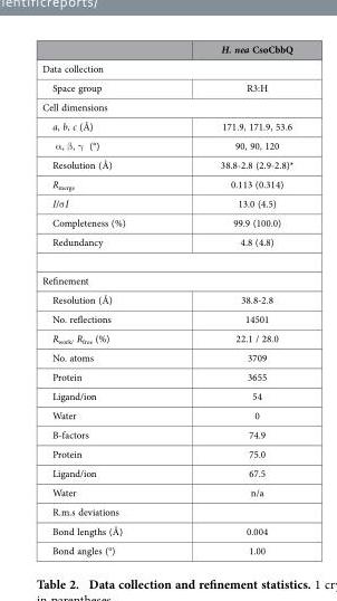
<table><thead><tr><td></td><td>H. nea CsoCbbQ</td></tr></thead><tbody><tr><td colspan="2">Data collection</td></tr><tr><td>Space group</td><td>R3:H</td></tr><tr><td colspan="2">Cell dimensions</td></tr><tr><td>a, b, c (Å)</td><td>171.9, 171.9, 53.6</td></tr><tr><td>α , β , γ (°)</td><td>90, 90, 120</td></tr><tr><td>Resolution (Å)</td><td>38.8-2.8 (2.9-2.8)*</td></tr><tr><td>R<sub>merge</sub></td><td>0.113 (0.314)</td></tr><tr><td>I/σ I</td><td>13.0 (4.5)</td></tr><tr><td>Completeness (%)</td><td>99.9 (100.0)</td></tr><tr><td>Redundancy</td><td>4.8 (4.8)</td></tr><tr><td colspan="2">Refinement</td></tr><tr><td>Resolution (Å)</td><td>38.8-2.8</td></tr><tr><td>No. reflections</td><td>14501</td></tr><tr><td>R<sub>work/</sub> R<sub>free</sub> (%)</td><td>22.1 / 28.0</td></tr><tr><td>No. atoms</td><td>3709</td></tr><tr><td>Protein</td><td>3655</td></tr><tr><td>Ligand/ion</td><td>54</td></tr><tr><td>Water</td><td>0</td></tr><tr><td>B-factors</td><td>74.9</td></tr><tr><td>Protein</td><td>75.0</td></tr><tr><td>Ligand/ion</td><td>67.5</td></tr><tr><td>Water</td><td>n/a</td></tr><tr><td colspan="2">R.m.s deviations</td></tr><tr><td>Bond lengths (Å)</td><td>0.004</td></tr><tr><td>Bond angles (°)</td><td>1.00</td></tr></tbody></table>